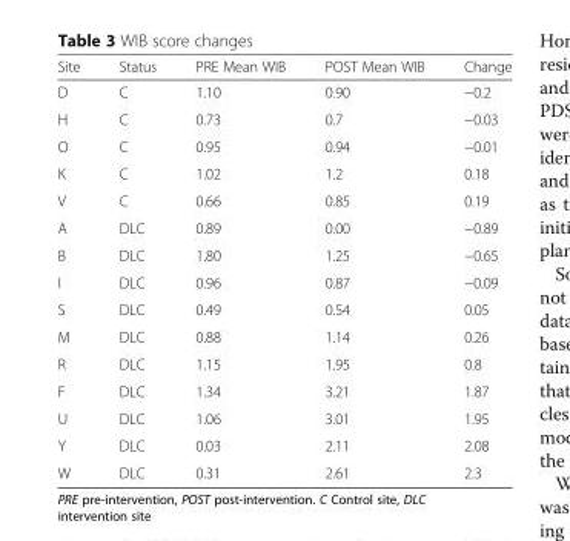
<table><thead><tr><td>Site</td><td>Status</td><td>PRE Mean WIB</td><td>POST Mean WIB</td><td>Change</td></tr></thead><tbody><tr><td>D</td><td>C</td><td>1.10</td><td>0.90</td><td>−0.2</td></tr><tr><td>H</td><td>C</td><td>0.73</td><td>0.7</td><td>−0.03</td></tr><tr><td>O</td><td>C</td><td>0.95</td><td>0.94</td><td>−0.01</td></tr><tr><td>K</td><td>C</td><td>1.02</td><td>1.2</td><td>0.18</td></tr><tr><td>V</td><td>C</td><td>0.66</td><td>0.85</td><td>0.19</td></tr><tr><td>A</td><td>DLC</td><td>0.89</td><td>0.00</td><td>−0.89</td></tr><tr><td>B</td><td>DLC</td><td>1.80</td><td>1.25</td><td>−0.65</td></tr><tr><td>I</td><td>DLC</td><td>0.96</td><td>0.87</td><td>−0.09</td></tr><tr><td>S</td><td>DLC</td><td>0.49</td><td>0.54</td><td>0.05</td></tr><tr><td>M</td><td>DLC</td><td>0.88</td><td>1.14</td><td>0.26</td></tr><tr><td>R</td><td>DLC</td><td>1.15</td><td>1.95</td><td>0.8</td></tr><tr><td>F</td><td>DLC</td><td>1.34</td><td>3.21</td><td>1.87</td></tr><tr><td>U</td><td>DLC</td><td>1.06</td><td>3.01</td><td>1.95</td></tr><tr><td>Y</td><td>DLC</td><td>0.03</td><td>2.11</td><td>2.08</td></tr><tr><td>W</td><td>DLC</td><td>0.31</td><td>2.61</td><td>2.3</td></tr></tbody></table>